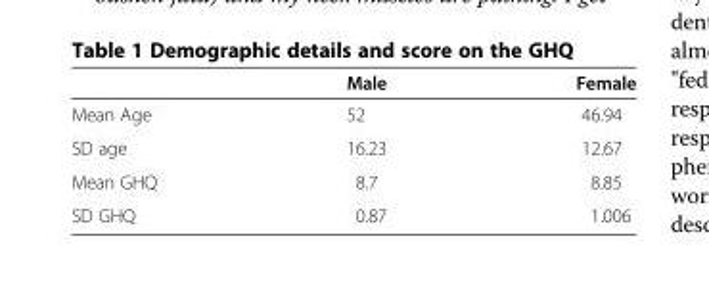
<table><thead><tr><td></td><td>Male</td><td>Female</td></tr></thead><tbody><tr><td>Mean Age</td><td>52</td><td>46.94</td></tr><tr><td>SD age</td><td>16.23</td><td>12.67</td></tr><tr><td>Mean GHQ</td><td>8.7</td><td>8.85</td></tr><tr><td>SD GHQ</td><td>0.87</td><td>1.006</td></tr></tbody></table>